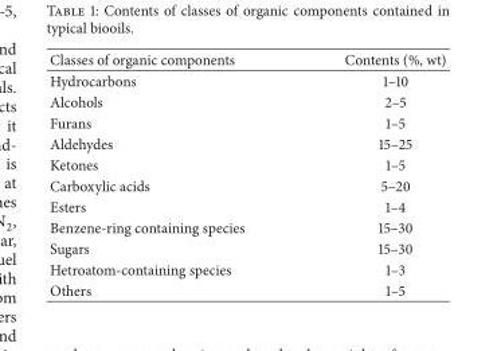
<table><thead><tr><td>Classes of organic components</td><td>Contents (%, wt)</td></tr></thead><tbody><tr><td>Hydrocarbons</td><td>1–10</td></tr><tr><td>Alcohols</td><td>2–5</td></tr><tr><td>Furans</td><td>1–5</td></tr><tr><td>Aldehydes</td><td>15–25</td></tr><tr><td>Ketones</td><td>1–5</td></tr><tr><td>Carboxylic acids</td><td>5–20</td></tr><tr><td>Esters</td><td>1–4</td></tr><tr><td>Benzene-ring containing species</td><td>15–30</td></tr><tr><td>Sugars</td><td>15–30</td></tr><tr><td>Hetroatom-containing species</td><td>1–3</td></tr><tr><td>Others</td><td>1–5</td></tr></tbody></table>